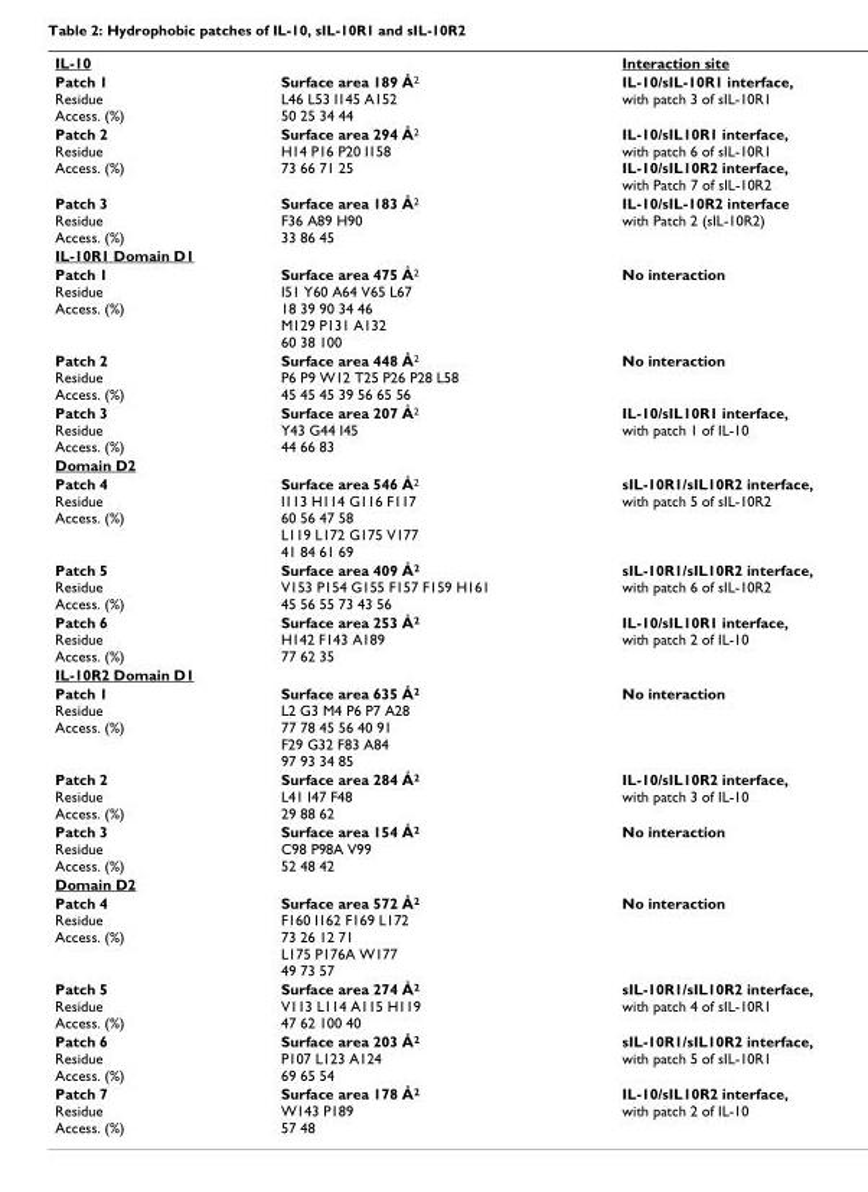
<table><tbody><tr><td>IL-10</td><td></td><td>Interaction site</td></tr><tr><td>Patch 1 Residue Access. (%)</td><td>Surface area 189 Å2 L46 L53 I145 A152 50 25 34 44</td><td>IL-10/sIL-10R1 interface, with patch 3 of sIL-10R1</td></tr><tr><td>Patch 2 Residue Access. (%)</td><td>Surface area 294 Å2 H14 P16 P20 I158 73 66 71 25</td><td>IL-10/sIL10R1 interface, with patch 6 of sIL-10R1 IL-10/sIL10R2 interface, with Patch 7 of sIL-10R2</td></tr><tr><td>Patch 3 Residue Access. (%)</td><td>Surface area 183 Å2 F36 A89 H90 33 86 45</td><td>IL-10/sIL-10R2 interface with Patch 2 (sIL-10R2)</td></tr><tr><td colspan="3">IL-10R1 Domain D1</td></tr><tr><td>Patch 1 Residue Access. (%)</td><td>Surface area 475 Å2 I51 Y60 A64 V65 L67 18 39 90 34 46 M129 P131 A132 60 38 100</td><td>No interaction</td></tr><tr><td>Patch 2 Residue Access. (%)</td><td>Surface area 448 Å2 P6 P9 W12 T25 P26 P28 L58 45 45 45 39 56 65 56</td><td>No interaction</td></tr><tr><td>Patch 3 Residue Access. (%)</td><td>Surface area 207 Å2 Y43 G44 I45 44 66 83</td><td>IL-10/sIL10R1 interface, with patch 1 of IL-10</td></tr><tr><td colspan="3">Domain D2</td></tr><tr><td>Patch 4 Residue Access. (%)</td><td>Surface area 546 Å2 I113 H114 G116 F117 60 56 47 58 L119 L172 G175 V177 41 84 61 69</td><td>sIL-10R1/sIL10R2 interface, with patch 5 of sIL-10R2</td></tr><tr><td>Patch 5 Residue Access. (%)</td><td>Surface area 409 Å2 V153 P154 G155 F157 F159 H161 45 56 55 73 43 56</td><td>sIL-10R1/sIL10R2 interface, with patch 6 of sIL-10R2</td></tr><tr><td>Patch 6 Residue Access. (%)</td><td>Surface area 253 Å2 H142 F143 A189 77 62 35</td><td>IL-10/sIL10R1 interface, with patch 2 of IL-10</td></tr><tr><td colspan="3">IL-10R2 Domain D1</td></tr><tr><td>Patch 1 Residue Access. (%)</td><td>Surface area 635 Å2 L2 G3 M4 P6 P7 A28 77 78 45 56 40 91 F29 G32 F83 A84 97 93 34 85</td><td>No interaction</td></tr><tr><td>Patch 2 Residue Access. (%)</td><td>Surface area 284 Å2 L41 I47 F48 29 88 62</td><td>IL-10/sIL10R2 interface, with patch 3 of IL-10</td></tr><tr><td>Patch 3 Residue Access. (%)</td><td>Surface area 154 Å2 C98 P98A V99 52 48 42</td><td>No interaction</td></tr><tr><td colspan="3">Domain D2</td></tr><tr><td>Patch 4 Residue Access. (%)</td><td>Surface area 572 Å2 F160 I162 F169 L172 73 26 12 71 L175 P176A W177 49 73 57</td><td>No interaction</td></tr><tr><td>Patch 5 Residue Access. (%)</td><td>Surface area 274 Å2 V113 L114 A115 H119 47 62 100 40</td><td>sIL-10R1/sIL10R2 interface, with patch 4 of sIL-10R1</td></tr><tr><td>Patch 6 Residue Access. (%)</td><td>Surface area 203 Å2 P107 L123 A124 69 65 54</td><td>sIL-10R1/sIL10R2 interface, with patch 5 of sIL-10R1</td></tr><tr><td>Patch 7 Residue Access. (%)</td><td>Surface area 178 Å2 W143 P189 57 48</td><td>IL-10/sIL10R2 interface, with patch 2 of IL-10</td></tr></tbody></table>